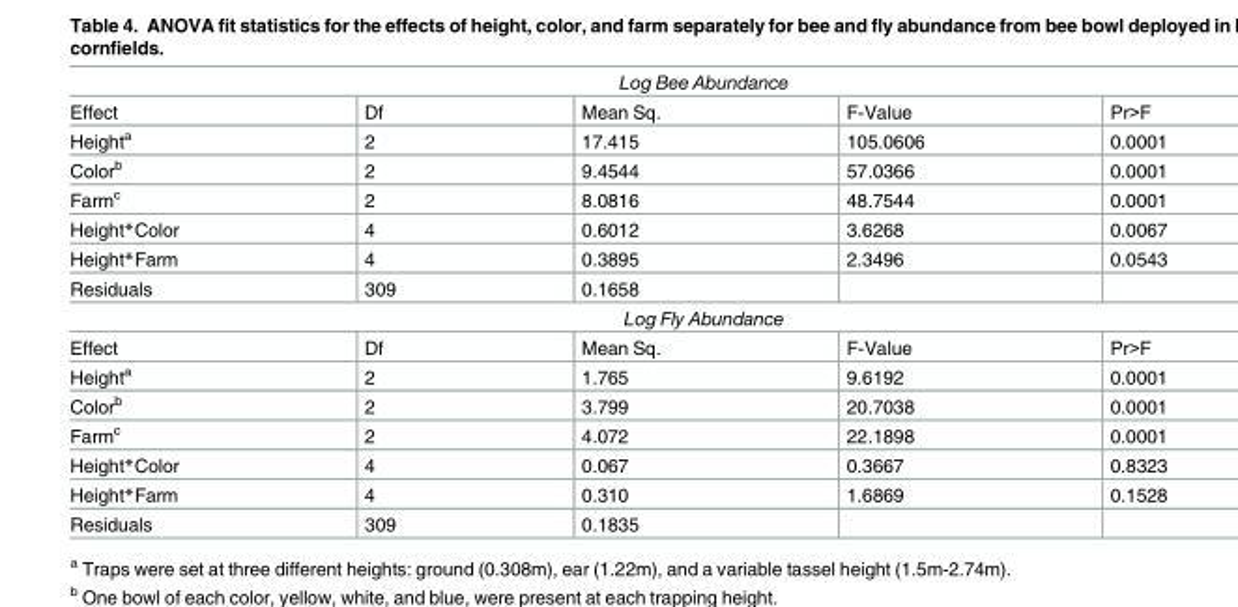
<table><tbody><tr><td colspan="5">Log Bee Abundance</td></tr><tr><td>Effect</td><td>Df</td><td>Mean Sq.</td><td>F-Value</td><td>Pr&gt;F</td></tr><tr><td>Height<sup>a</sup></td><td>2</td><td>17.415</td><td>105.0606</td><td>0.0001</td></tr><tr><td>Color<sup>b</sup></td><td>2</td><td>9.4544</td><td>57.0366</td><td>0.0001</td></tr><tr><td>Farm<sup>c</sup></td><td>2</td><td>8.0816</td><td>48.7544</td><td>0.0001</td></tr><tr><td>Height*Color</td><td>4</td><td>0.6012</td><td>3.6268</td><td>0.0067</td></tr><tr><td>Height*Farm</td><td>4</td><td>0.3895</td><td>2.3496</td><td>0.0543</td></tr><tr><td>Residuals</td><td>309</td><td>0.1658</td><td></td><td></td></tr><tr><td colspan="5">Log Fly Abundance</td></tr><tr><td>Effect</td><td>Df</td><td>Mean Sq.</td><td>F-Value</td><td>Pr&gt;F</td></tr><tr><td>Height<sup>a</sup></td><td>2</td><td>1.765</td><td>9.6192</td><td>0.0001</td></tr><tr><td>Color<sup>b</sup></td><td>2</td><td>3.799</td><td>20.7038</td><td>0.0001</td></tr><tr><td>Farm<sup>c</sup></td><td>2</td><td>4.072</td><td>22.1898</td><td>0.0001</td></tr><tr><td>Height*Color</td><td>4</td><td>0.067</td><td>0.3667</td><td>0.8323</td></tr><tr><td>Height*Farm</td><td>4</td><td>0.310</td><td>1.6869</td><td>0.1528</td></tr><tr><td>Residuals</td><td>309</td><td>0.1835</td><td></td><td></td></tr></tbody></table>